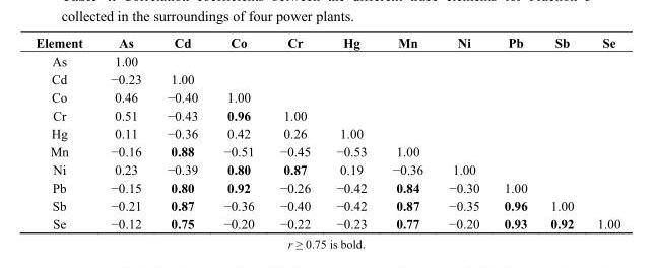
<table><thead><tr><td>Element</td><td>As</td><td>Cd</td><td>Co</td><td>Cr</td><td>Hg</td><td>Mn</td><td>Ni</td><td>Pb</td><td>Sb</td><td>Se</td></tr></thead><tbody><tr><td>As</td><td>1.00</td><td></td><td></td><td></td><td></td><td></td><td></td><td></td><td></td><td></td></tr><tr><td>Cd</td><td>−0.23</td><td>1.00</td><td></td><td></td><td></td><td></td><td></td><td></td><td></td><td></td></tr><tr><td>Co</td><td>0.46</td><td>−0.40</td><td>1.00</td><td></td><td></td><td></td><td></td><td></td><td></td><td></td></tr><tr><td>Cr</td><td>0.51</td><td>−0.43</td><td>0.96</td><td>1.00</td><td></td><td></td><td></td><td></td><td></td><td></td></tr><tr><td>Hg</td><td>0.11</td><td>−0.36</td><td>0.42</td><td>0.26</td><td>1.00</td><td></td><td></td><td></td><td></td><td></td></tr><tr><td>Mn</td><td>−0.16</td><td>0.88</td><td>−0.51</td><td>−0.45</td><td>−0.53</td><td>1.00</td><td></td><td></td><td></td><td></td></tr><tr><td>Ni</td><td>0.23</td><td>−0.39</td><td>0.80</td><td>0.87</td><td>0.19</td><td>−0.36</td><td>1.00</td><td></td><td></td><td></td></tr><tr><td>Pb</td><td>−0.15</td><td>0.80</td><td>0.92</td><td>−0.26</td><td>−0.42</td><td>0.84</td><td>−0.30</td><td>1.00</td><td></td><td></td></tr><tr><td>Sb</td><td>−0.21</td><td>0.87</td><td>−0.36</td><td>−0.40</td><td>−0.42</td><td>0.87</td><td>−0.35</td><td>0.96</td><td>1.00</td><td></td></tr><tr><td>Se</td><td>−0.12</td><td>0.75</td><td>−0.20</td><td>−0.22</td><td>−0.23</td><td>0.77</td><td>−0.20</td><td>0.93</td><td>0.92</td><td>1.00</td></tr></tbody></table>